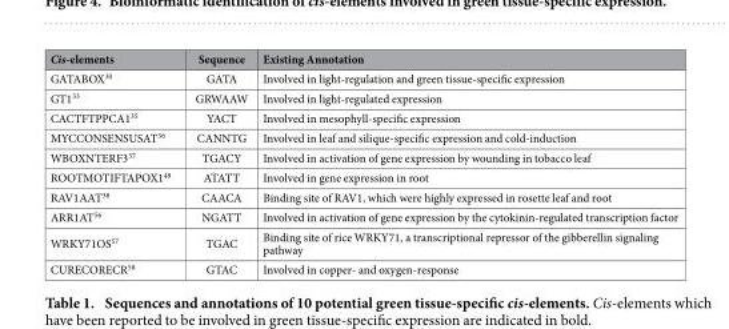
<table><thead><tr><td>Cis-elements</td><td>Sequence</td><td>Existing Annotation</td></tr></thead><tbody><tr><td>GATABOX<sup>30</sup></td><td>GATA</td><td>Involved in light-regulation and green tissue-specific expression</td></tr><tr><td>GT1<sup>33</sup></td><td>GRWAAW</td><td>Involved in light-regulated expression</td></tr><tr><td>CACTFTPPCA1<sup>35</sup></td><td>YACT</td><td>Involved in mesophyll-specific expression</td></tr><tr><td>MYCCONSENSUSAT<sup>36</sup></td><td>CANNTG</td><td>Involved in leaf and silique-specific expression and cold-induction</td></tr><tr><td>WBOXNTERF3<sup>37</sup></td><td>TGACY</td><td>Involved in activation of gene expression by wounding in tobacco leaf</td></tr><tr><td>ROOTMOTIFTAPOX1<sup>48</sup></td><td>ATATT</td><td>Involved in gene expression in root</td></tr><tr><td>RAV1AAT<sup>38</sup></td><td>CAACA</td><td>Binding site of RAV1, which were highly expressed in rosette leaf and root</td></tr><tr><td>ARR1AT<sup>56</sup></td><td>NGATT</td><td>Involved in activation of gene expression by the cytokinin-regulated transcription factor</td></tr><tr><td>WRKY71OS<sup>57</sup></td><td>TGAC</td><td>Binding site of rice WRKY71, a transcriptional repressor of the gibberellin signaling pathway</td></tr><tr><td>CURECORECR<sup>58</sup></td><td>GTAC</td><td>Involved in copper- and oxygen-response</td></tr></tbody></table>